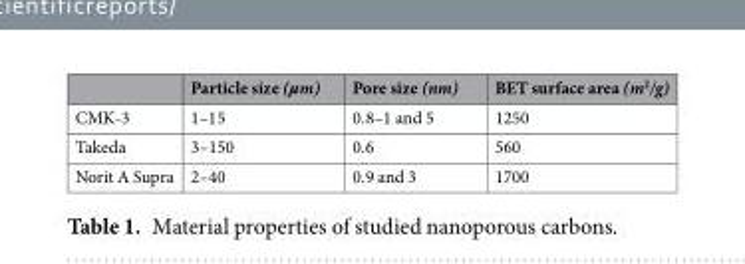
<table><thead><tr><td></td><td>Particle size (µm)</td><td>Pore size (nm)</td><td>BET surface area (m<sup>2</sup>/g)</td></tr></thead><tbody><tr><td>CMK-3</td><td>1–15</td><td>0.8–1 and 5</td><td>1250</td></tr><tr><td>Takeda</td><td>3–150</td><td>0.6</td><td>560</td></tr><tr><td>Norit A Supra</td><td>2–40</td><td>0.9 and 3</td><td>1700</td></tr></tbody></table>